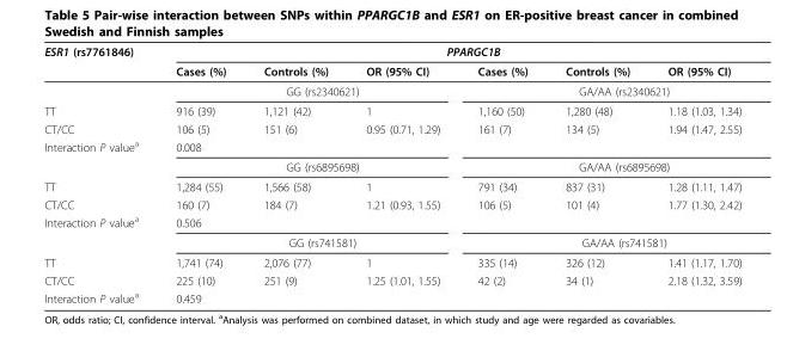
<table><thead><tr><td rowspan="2">ESR1 (rs7761846)</td><td colspan="6">PPARGC1B</td></tr><tr><td>Cases (%)</td><td>Controls (%)</td><td>OR (95% CI)</td><td>Cases (%)</td><td>Controls (%)</td><td>OR (95% CI)</td></tr></thead><tbody><tr><td></td><td colspan="3">GG (rs2340621)</td><td colspan="3">GA/AA (rs2340621)</td></tr><tr><td>TT</td><td>916 (39)</td><td>1,121 (42)</td><td>1</td><td>1,160 (50)</td><td>1,280 (48)</td><td>1.18 (1.03, 1.34)</td></tr><tr><td>CT/CC</td><td>106 (5)</td><td>151 (6)</td><td>0.95 (0.71, 1.29)</td><td>161 (7)</td><td>134 (5)</td><td>1.94 (1.47, 2.55)</td></tr><tr><td rowspan="2">Interaction P value<sup>a</sup></td><td>0.008</td><td></td><td></td><td></td><td></td><td></td></tr><tr><td colspan="3">GG (rs6895698)</td><td colspan="3">GA/AA (rs6895698)</td></tr><tr><td>TT</td><td>1,284 (55)</td><td>1,566 (58)</td><td>1</td><td>791 (34)</td><td>837 (31)</td><td>1.28 (1.11, 1.47)</td></tr><tr><td>CT/CC</td><td>160 (7)</td><td>184 (7)</td><td>1.21 (0.93, 1.55)</td><td>106 (5)</td><td>101 (4)</td><td>1.77 (1.30, 2.42)</td></tr><tr><td rowspan="2">Interaction P value<sup>a</sup></td><td>0.506</td><td></td><td></td><td></td><td></td><td></td></tr><tr><td colspan="3">GG (rs741581)</td><td colspan="3">GA/AA (rs741581)</td></tr><tr><td>TT</td><td>1,741 (74)</td><td>2,076 (77)</td><td>1</td><td>335 (14)</td><td>326 (12)</td><td>1.41 (1.17, 1.70)</td></tr><tr><td>CT/CC</td><td>225 (10)</td><td>251 (9)</td><td>1.25 (1.01, 1.55)</td><td>42 (2)</td><td>34 (1)</td><td>2.18 (1.32, 3.59)</td></tr><tr><td>Interaction P value<sup>a</sup></td><td>0.459</td><td></td><td></td><td></td><td></td><td></td></tr></tbody></table>